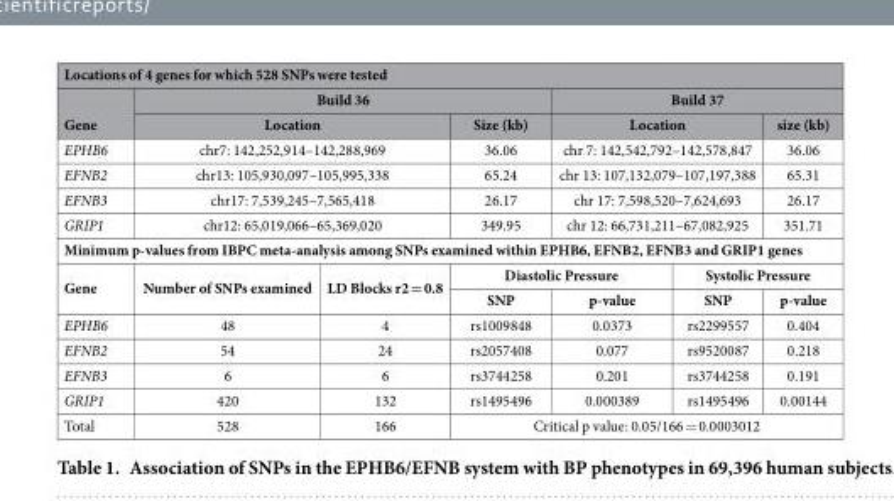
<table><thead><tr><td colspan="7">Locations of 4 genes for which 528 SNPs were tested</td></tr><tr><td rowspan="2">Gene</td><td colspan="3">Build 36</td><td colspan="3">Build 37</td></tr><tr><td colspan="2">Location</td><td>Size (kb)</td><td colspan="2">Location</td><td>size (kb)</td></tr></thead><tbody><tr><td>EPHB6</td><td colspan="2">chr7: 142,252,914–142,288,969</td><td>36.06</td><td colspan="2">chr 7: 142,542,792–142,578,847</td><td>36.06</td></tr><tr><td>EFNB2</td><td colspan="2">chr13: 105,930,097–105,995,338</td><td>65.24</td><td colspan="2">chr 13: 107,132,079–107,197,388</td><td>65.31</td></tr><tr><td>EFNB3</td><td colspan="2">chr17: 7,539,245–7,565,418</td><td>26.17</td><td colspan="2">chr 17: 7,598,520–7,624,693</td><td>26.17</td></tr><tr><td>GRIP1</td><td colspan="2">chr12: 65,019,066–65,369,020</td><td>349.95</td><td colspan="2">chr 12: 66,731,211–67,082,925</td><td>351.71</td></tr><tr><td colspan="7">Minimum p-values from IBPC meta-analysis among SNPs examined within EPHB6, EFNB2, EFNB3 and GRIP1 genes</td></tr><tr><td rowspan="2">Gene</td><td rowspan="2">Number of SNPs examined</td><td rowspan="2">LD Blocks r2 = 0.8</td><td colspan="2">Diastolic Pressure</td><td colspan="2">Systolic Pressure</td></tr><tr><td>SNP</td><td>p-value</td><td>SNP</td><td>p-value</td></tr><tr><td>EPHB6</td><td>48</td><td>4</td><td>rs1009848</td><td>0.0373</td><td>rs2299557</td><td>0.404</td></tr><tr><td>EFNB2</td><td>54</td><td>24</td><td>rs2057408</td><td>0.077</td><td>rs9520087</td><td>0.218</td></tr><tr><td>EFNB3</td><td>6</td><td>6</td><td>rs3744258</td><td>0.201</td><td>rs3744258</td><td>0.191</td></tr><tr><td>GRIP1</td><td>420</td><td>132</td><td>rs1495496</td><td>0.000389</td><td>rs1495496</td><td>0.00144</td></tr><tr><td>Total</td><td>528</td><td>166</td><td colspan="4">Critical p value: 0.05/166 = 0.0003012</td></tr></tbody></table>